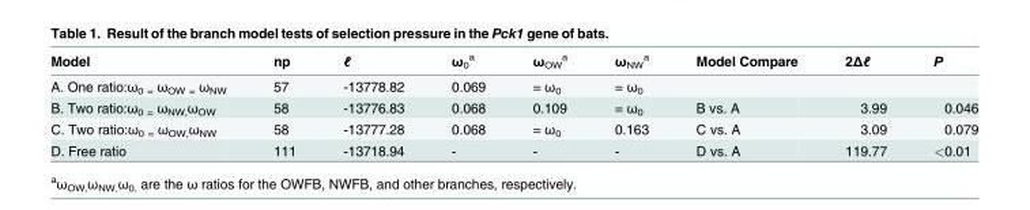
<table><thead><tr><td>Model</td><td>np</td><td>ℓ</td><td>ω<sub>0</sub> <sup>a</sup></td><td>ω<sub>OW</sub> <sup>a</sup></td><td>ω<sub>NW</sub> <sup>a</sup></td><td>Model Compare</td><td>2Δℓ</td><td>P</td></tr></thead><tbody><tr><td>A. One ratio:ω<sub>0 =</sub> ω<sub>OW =</sub> ω<sub>NW</sub></td><td>57</td><td>-13778.82</td><td>0.069</td><td>= ω<sub>0</sub></td><td>= ω<sub>0</sub></td><td></td><td></td><td></td></tr><tr><td>B. Two ratio:ω<sub>0 =</sub> ω<sub>NW,</sub>ω<sub>OW</sub></td><td>58</td><td>-13776.83</td><td>0.068</td><td>0.109</td><td>= ω<sub>0</sub></td><td>B vs. A</td><td>3.99</td><td>0.046</td></tr><tr><td>C. Two ratio:ω<sub>0 =</sub> ω<sub>OW,</sub>ω<sub>NW</sub></td><td>58</td><td>-13777.28</td><td>0.068</td><td>= ω<sub>0</sub></td><td>0.163</td><td>C vs. A</td><td>3.09</td><td>0.079</td></tr><tr><td>D. Free ratio</td><td>111</td><td>-13718.94</td><td>-</td><td>-</td><td>-</td><td>D vs. A</td><td>119.77</td><td>&lt;0.01</td></tr></tbody></table>